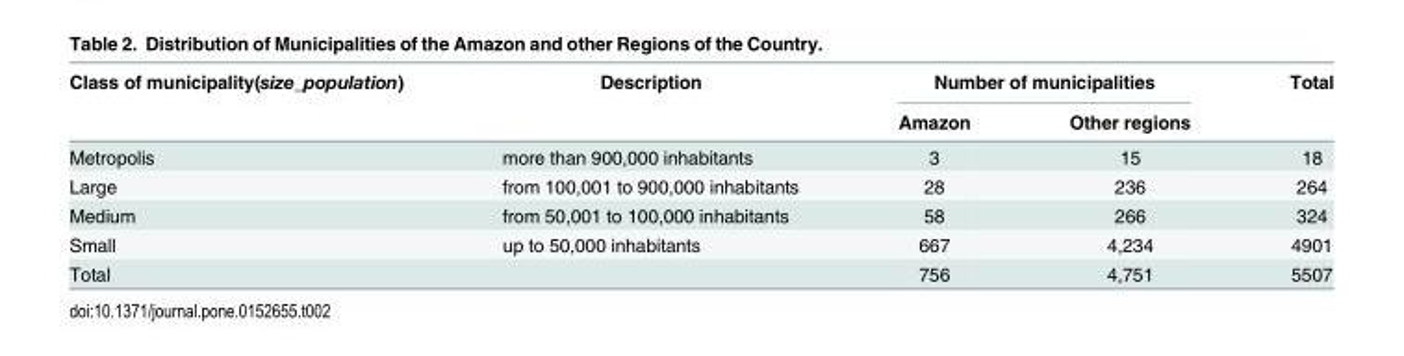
<table><thead><tr><td rowspan="2">Class of municipality(size_population)</td><td rowspan="2">Description</td><td colspan="2">Number of municipalities</td><td rowspan="2">Total</td></tr><tr><td>Amazon</td><td>Other regions</td></tr></thead><tbody><tr><td>Metropolis</td><td>more than 900,000 inhabitants</td><td>3</td><td>15</td><td>18</td></tr><tr><td>Large</td><td>from 100,001 to 900,000 inhabitants</td><td>28</td><td>236</td><td>264</td></tr><tr><td>Medium</td><td>from 50,001 to 100,000 inhabitants</td><td>58</td><td>266</td><td>324</td></tr><tr><td>Small</td><td>up to 50,000 inhabitants</td><td>667</td><td>4,234</td><td>4901</td></tr><tr><td>Total</td><td></td><td>756</td><td>4,751</td><td>5507</td></tr></tbody></table>